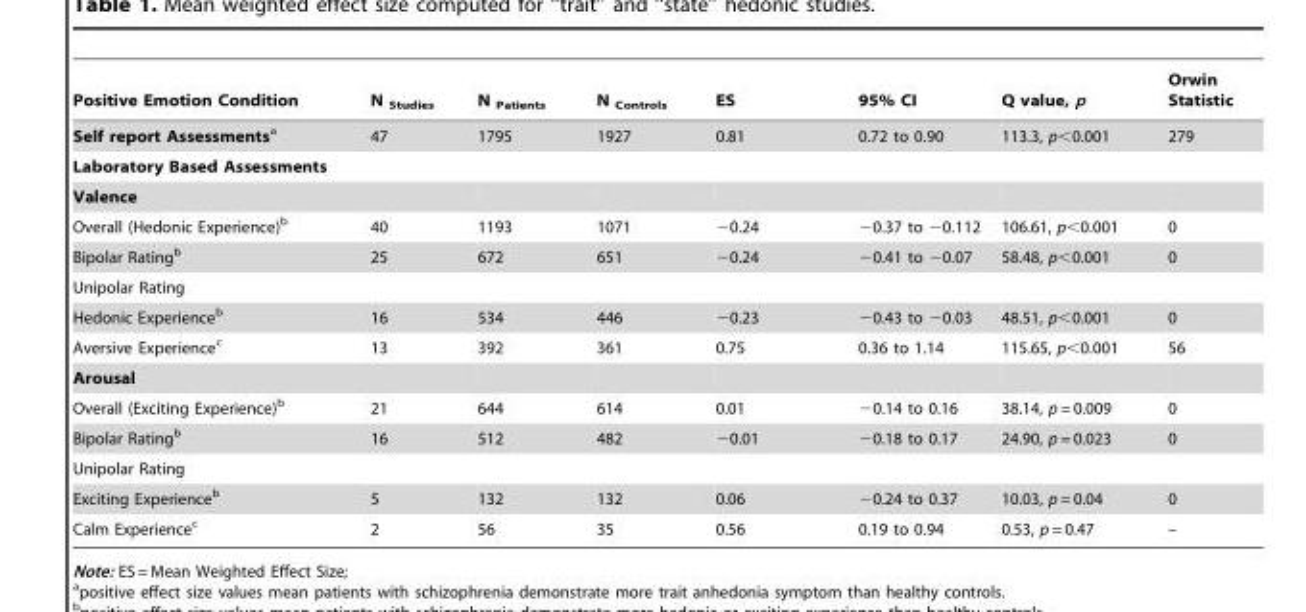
<table><thead><tr><td>Positive Emotion Condition</td><td>N <sub>Studies</sub></td><td>N <sub>Patients</sub></td><td>N <sub>Controls</sub></td><td>ES</td><td>95% CI</td><td>Q value, p</td><td>Orwin Statistic</td></tr></thead><tbody><tr><td>Self report Assessmentsa</td><td>47</td><td>1795</td><td>1927</td><td>0.81</td><td>0.72 to 0.90</td><td>113.3, p&lt;0.001</td><td>279</td></tr><tr><td colspan="8">Laboratory Based Assessments</td></tr><tr><td colspan="8">Valence</td></tr><tr><td>Overall (Hedonic Experience)<sup>b</sup></td><td>40</td><td>1193</td><td>1071</td><td>−0.24</td><td>−0.37 to −0.112</td><td>106.61, p&lt;0.001</td><td>0</td></tr><tr><td>Bipolar Rating<sup>b</sup></td><td>25</td><td>672</td><td>651</td><td>−0.24</td><td>−0.41 to −0.07</td><td>58.48, p&lt;0.001</td><td>0</td></tr><tr><td colspan="8">Unipolar Rating</td></tr><tr><td>Hedonic Experience<sup>b</sup></td><td>16</td><td>534</td><td>446</td><td>−0.23</td><td>−0.43 to −0.03</td><td>48.51, p&lt;0.001</td><td>0</td></tr><tr><td>Aversive Experience<sup>c</sup></td><td>13</td><td>392</td><td>361</td><td>0.75</td><td>0.36 to 1.14</td><td>115.65, p&lt;0.001</td><td>56</td></tr><tr><td colspan="8">Arousal</td></tr><tr><td>Overall (Exciting Experience)<sup>b</sup></td><td>21</td><td>644</td><td>614</td><td>0.01</td><td>−0.14 to 0.16</td><td>38.14, p = 0.009</td><td>0</td></tr><tr><td>Bipolar Rating<sup>b</sup></td><td>16</td><td>512</td><td>482</td><td>−0.01</td><td>−0.18 to 0.17</td><td>24.90, p = 0.023</td><td>0</td></tr><tr><td colspan="8">Unipolar Rating</td></tr><tr><td>Exciting Experience<sup>b</sup></td><td>5</td><td>132</td><td>132</td><td>0.06</td><td>−0.24 to 0.37</td><td>10.03, p = 0.04</td><td>0</td></tr><tr><td>Calm Experience<sup>c</sup></td><td>2</td><td>56</td><td>35</td><td>0.56</td><td>0.19 to 0.94</td><td>0.53, p = 0.47</td><td>–</td></tr></tbody></table>